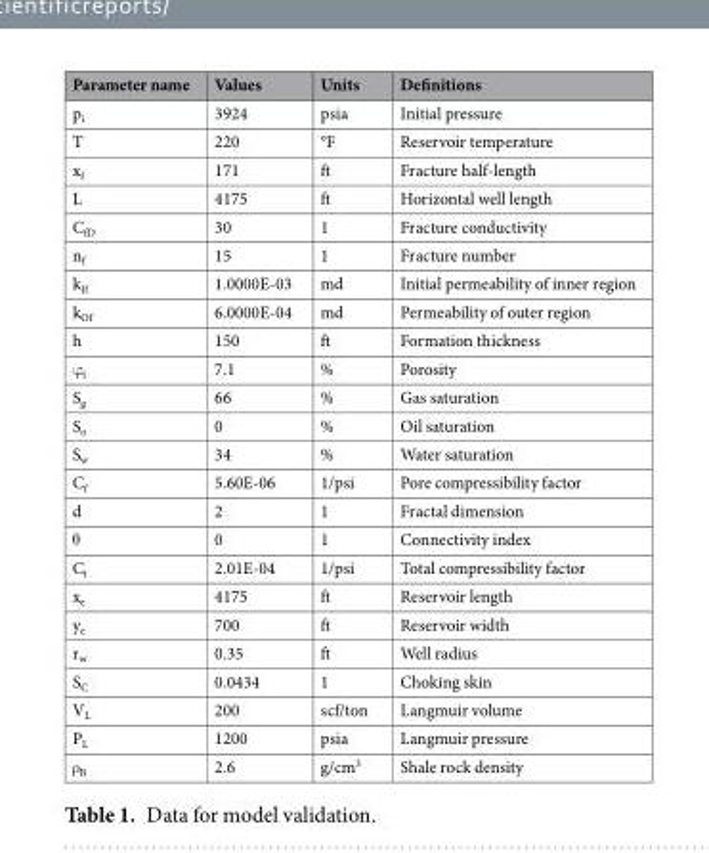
<table><thead><tr><td>Parameter name</td><td>Values</td><td>Units</td><td>Definitions</td></tr></thead><tbody><tr><td>p<sub>i</sub></td><td>3924</td><td>psia</td><td>Initial pressure</td></tr><tr><td>T</td><td>220</td><td>°F</td><td>Reservoir temperature</td></tr><tr><td>x<sub>f</sub></td><td>171</td><td>ft</td><td>Fracture half-length</td></tr><tr><td>L</td><td>4175</td><td>ft</td><td>Horizontal well length</td></tr><tr><td>C<sub>fD</sub></td><td>30</td><td>1</td><td>Fracture conductivity</td></tr><tr><td>n<sub>f</sub></td><td>15</td><td>1</td><td>Fracture number</td></tr><tr><td>k<sub>If</sub></td><td>1.0000E-03</td><td>md</td><td>Initial permeability of inner region</td></tr><tr><td>k<sub>Of</sub></td><td>6.0000E-04</td><td>md</td><td>Permeability of outer region</td></tr><tr><td>h</td><td>150</td><td>ft</td><td>Formation thickness</td></tr><tr><td>ϕ<sub>t</sub></td><td>7.1</td><td>%</td><td>Porosity</td></tr><tr><td>S<sub>g</sub></td><td>66</td><td>%</td><td>Gas saturation</td></tr><tr><td>S<sub>o</sub></td><td>0</td><td>%</td><td>Oil saturation</td></tr><tr><td>S<sub>w</sub></td><td>34</td><td>%</td><td>Water saturation</td></tr><tr><td>C<sub>f</sub></td><td>5.60E-06</td><td>1/psi</td><td>Pore compressibility factor</td></tr><tr><td>d</td><td>2</td><td>1</td><td>Fractal dimension</td></tr><tr><td>θ</td><td>0</td><td>1</td><td>Connectivity index</td></tr><tr><td>C<sub>t</sub></td><td>2.01E-04</td><td>1/psi</td><td>Total compressibility factor</td></tr><tr><td>x<sub>e</sub></td><td>4175</td><td>ft</td><td>Reservoir length</td></tr><tr><td>y<sub>e</sub></td><td>700</td><td>ft</td><td>Reservoir width</td></tr><tr><td>r<sub>w</sub></td><td>0.35</td><td>ft</td><td>Well radius</td></tr><tr><td>S<sub>C</sub></td><td>0.0434</td><td>1</td><td>Choking skin</td></tr><tr><td>V<sub>L</sub></td><td>200</td><td>scf/ton</td><td>Langmuir volume</td></tr><tr><td>P<sub>L</sub></td><td>1200</td><td>psia</td><td>Langmuir pressure</td></tr><tr><td>ρ<sub>B</sub></td><td>2.6</td><td>g/cm<sup>3</sup></td><td>Shale rock density</td></tr></tbody></table>